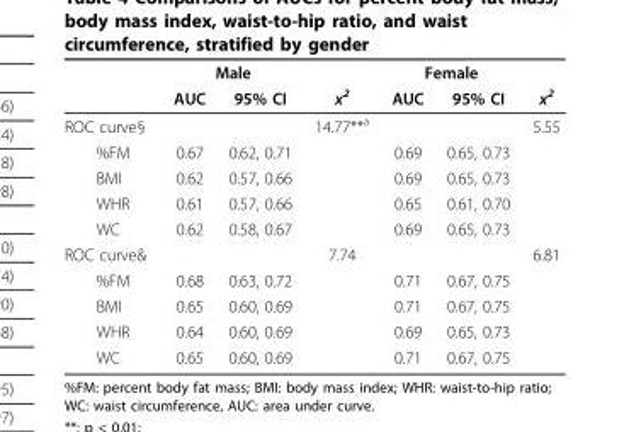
<table><thead><tr><td rowspan="2"></td><td colspan="2">Male</td><td rowspan="2">x<sup>2</sup></td><td colspan="2">Female</td><td rowspan="2">x<sup>2</sup></td></tr><tr><td>AUC</td><td>95% CI</td><td>AUC</td><td>95% CI</td></tr></thead><tbody><tr><td>ROC curve§</td><td></td><td></td><td>14.77**<sup>a</sup></td><td></td><td></td><td>5.55</td></tr><tr><td>%FM</td><td>0.67</td><td>0.62, 0.71</td><td></td><td>0.69</td><td>0.65, 0.73</td><td></td></tr><tr><td>BMI</td><td>0.62</td><td>0.57, 0.66</td><td></td><td>0.69</td><td>0.65, 0.73</td><td></td></tr><tr><td>WHR</td><td>0.61</td><td>0.57, 0.66</td><td></td><td>0.65</td><td>0.61, 0.70</td><td></td></tr><tr><td>WC</td><td>0.62</td><td>0.58, 0.67</td><td></td><td>0.69</td><td>0.65, 0.73</td><td></td></tr><tr><td>ROC curve&amp;</td><td></td><td></td><td>7.74</td><td></td><td></td><td>6.81</td></tr><tr><td>%FM</td><td>0.68</td><td>0.63, 0.72</td><td></td><td>0.71</td><td>0.67, 0.75</td><td></td></tr><tr><td>BMI</td><td>0.65</td><td>0.60, 0.69</td><td></td><td>0.71</td><td>0.67, 0.75</td><td></td></tr><tr><td>WHR</td><td>0.64</td><td>0.60, 0.69</td><td></td><td>0.69</td><td>0.65, 0.73</td><td></td></tr><tr><td>WC</td><td>0.65</td><td>0.60, 0.69</td><td></td><td>0.71</td><td>0.67, 0.75</td><td></td></tr></tbody></table>